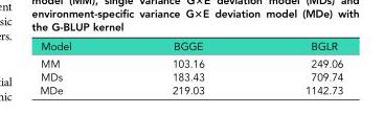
<table><thead><tr><td>Model</td><td>BGGE</td><td>BGLR</td></tr></thead><tbody><tr><td>MM</td><td>103.16</td><td>249.06</td></tr><tr><td>MDs</td><td>183.43</td><td>709.74</td></tr><tr><td>MDe</td><td>219.03</td><td>1142.73</td></tr></tbody></table>